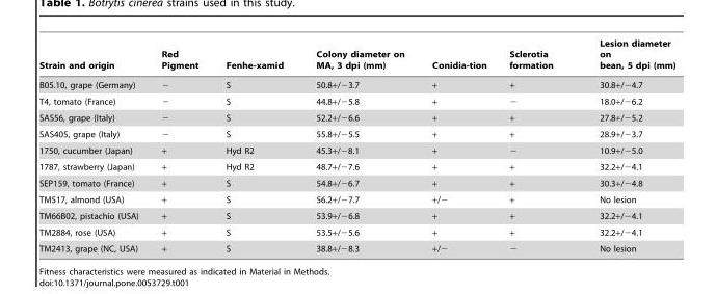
<table><thead><tr><td>Strain and origin</td><td>Red Pigment</td><td>Fenhe-xamid</td><td>Colony diameter on MA, 3 dpi (mm)</td><td>Conidia-tion</td><td>Sclerotia formation</td><td>Lesion diameter on bean, 5 dpi (mm)</td></tr></thead><tbody><tr><td>B05.10, grape (Germany)</td><td>−</td><td>S</td><td>50.8+/−3.7</td><td>+</td><td>+</td><td>30.8+/−4.7</td></tr><tr><td>T4, tomato (France)</td><td>−</td><td>S</td><td>44.8+/−5.8</td><td>+</td><td>−</td><td>18.0+/−6.2</td></tr><tr><td>SAS56, grape (Italy)</td><td>−</td><td>S</td><td>52.2+/−6.6</td><td>+</td><td>+</td><td>27.8+/−5.2</td></tr><tr><td>SAS405, grape (Italy)</td><td>−</td><td>S</td><td>55.8+/−5.5</td><td>+</td><td>+</td><td>28.9+/−3.7</td></tr><tr><td>1750, cucumber (Japan)</td><td>+</td><td>Hyd R2</td><td>45.3+/−8.1</td><td>+</td><td>−</td><td>10.9+/−5.0</td></tr><tr><td>1787, strawberry (Japan)</td><td>+</td><td>Hyd R2</td><td>48.7+/−7.6</td><td>+</td><td>+</td><td>32.2+/−4.1</td></tr><tr><td>SEP159, tomato (France)</td><td>+</td><td>S</td><td>54.8+/−6.7</td><td>+</td><td>+</td><td>30.3+/−4.8</td></tr><tr><td>TM517, almond (USA)</td><td>+</td><td>S</td><td>56.2+/−7.7</td><td>+/−</td><td>+</td><td>No lesion</td></tr><tr><td>TM66B02, pistachio (USA)</td><td>+</td><td>S</td><td>53.9+/−6.8</td><td>+</td><td>+</td><td>32.2+/−4.1</td></tr><tr><td>TM2884, rose (USA)</td><td>+</td><td>S</td><td>53.5+/−5.6</td><td>+</td><td>+</td><td>32.2+/−4.1</td></tr><tr><td>TM2413, grape (NC, USA)</td><td>+</td><td>S</td><td>38.8+/−8.3</td><td>+/−</td><td>−</td><td>No lesion</td></tr></tbody></table>